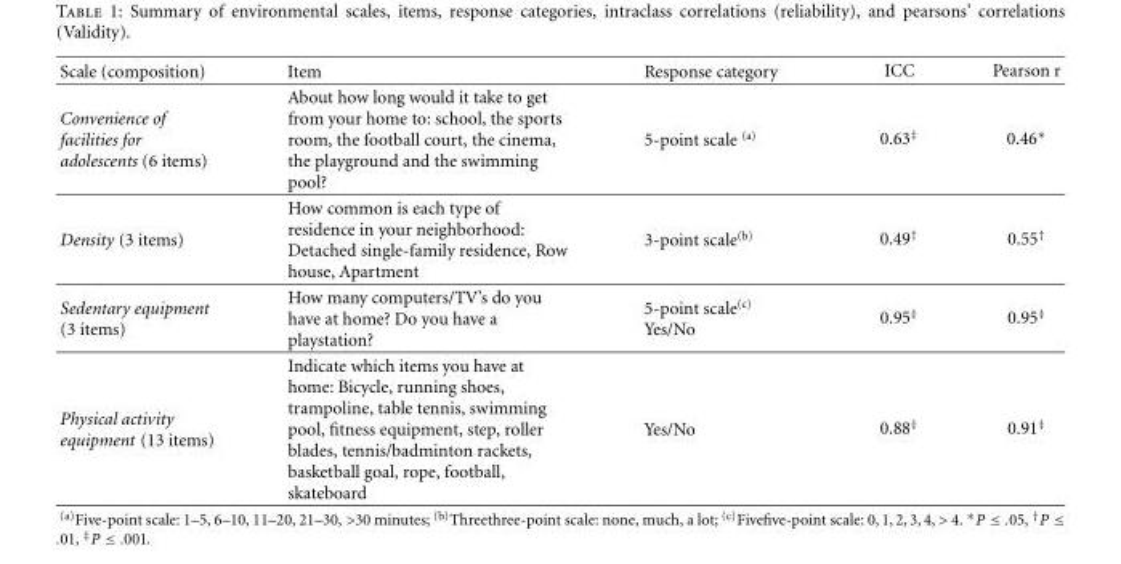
<table><thead><tr><td>Scale (composition)</td><td>Item</td><td>Response category</td><td>ICC</td><td>Pearson r</td></tr></thead><tbody><tr><td>Convenience of facilities for adolescents (6 items)</td><td>About how long would it take to get from your home to: school, the sports room, the football court, the cinema, the playground and the swimming pool?</td><td>5-point scale <sup>(a)</sup></td><td>0.63<sup>‡</sup></td><td>0.46∗</td></tr><tr><td>Density (3 items)</td><td>How common is each type of residence in your neighborhood: Detached single-family residence, Row house, Apartment</td><td>3-point scale<sup>(b)</sup></td><td>0.49<sup>†</sup></td><td>0.55<sup>†</sup></td></tr><tr><td>Sedentary equipment (3 items)</td><td>How many computers/TV’s do you have at home? Do you have a playstation?</td><td>5-point scale<sup>(c)</sup> Yes/No</td><td>0.95<sup>‡</sup></td><td>0.95<sup>‡</sup></td></tr><tr><td>Physical activity equipment (13 items)</td><td>Indicate which items you have at home: Bicycle, running shoes, trampoline, table tennis, swimming pool, fitness equipment, step, roller blades, tennis/badminton rackets, basketball goal, rope, football, skateboard</td><td>Yes/No</td><td>0.88<sup>‡</sup></td><td>0.91<sup>‡</sup></td></tr></tbody></table>